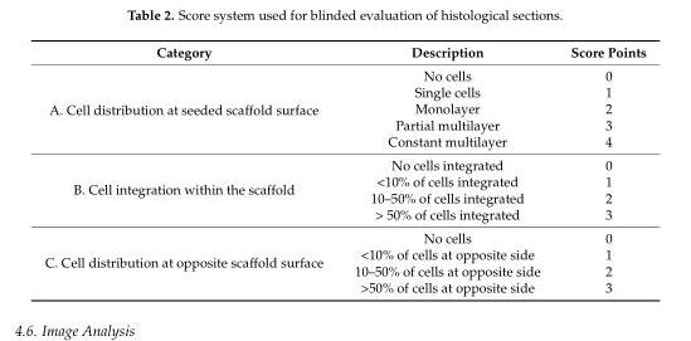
<table><thead><tr><td>Category</td><td>Description</td><td>Score Points</td></tr></thead><tbody><tr><td rowspan="5">A. Cell distribution at seeded scaffold surface</td><td>No cells</td><td>0</td></tr><tr><td>Single cells</td><td>1</td></tr><tr><td>Monolayer</td><td>2</td></tr><tr><td>Partial multilayer</td><td>3</td></tr><tr><td>Constant multilayer</td><td>4</td></tr><tr><td rowspan="4">B. Cell integration within the scaffold</td><td>No cells integrated</td><td>0</td></tr><tr><td>&lt;10% of cells integrated</td><td>1</td></tr><tr><td>10–50% of cells integrated</td><td>2</td></tr><tr><td>&gt; 50% of cells integrated</td><td>3</td></tr><tr><td rowspan="4">C. Cell distribution at opposite scaffold surface</td><td>No cells</td><td>0</td></tr><tr><td>&lt;10% of cells at opposite side</td><td>1</td></tr><tr><td>10–50% of cells at opposite side</td><td>2</td></tr><tr><td>&gt;50% of cells at opposite side</td><td>3</td></tr></tbody></table>